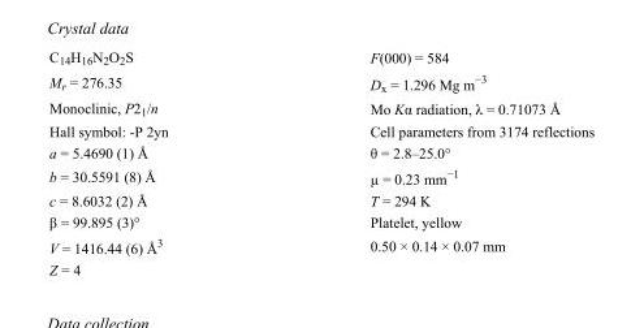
<table><tbody><tr><td>C<sub>14</sub>H<sub>16</sub>N<sub>2</sub>O<sub>2</sub>S</td><td>F(000) = 584</td></tr><tr><td>M<sub>r</sub> = 276.35</td><td>D<sub>x</sub> = 1.296 Mg m<sup>−3</sup></td></tr><tr><td>Monoclinic, P2<sub>1</sub>/n</td><td>Mo Kα radiation, λ = 0.71073 Å</td></tr><tr><td>Hall symbol: -P 2yn</td><td>Cell parameters from 3174 reflections</td></tr><tr><td>a = 5.4690 (1) Å</td><td>θ = 2.8–25.0°</td></tr><tr><td>b = 30.5591 (8) Å</td><td>µ = 0.23 mm<sup>−1</sup></td></tr><tr><td>c = 8.6032 (2) Å</td><td>T = 294 K</td></tr><tr><td>β = 99.895 (3)°</td><td>Platelet, yellow</td></tr><tr><td>V = 1416.44 (6) Å<sup>3</sup></td><td>0.50 × 0.14 × 0.07 mm</td></tr><tr><td>Z = 4</td><td></td></tr></tbody></table>